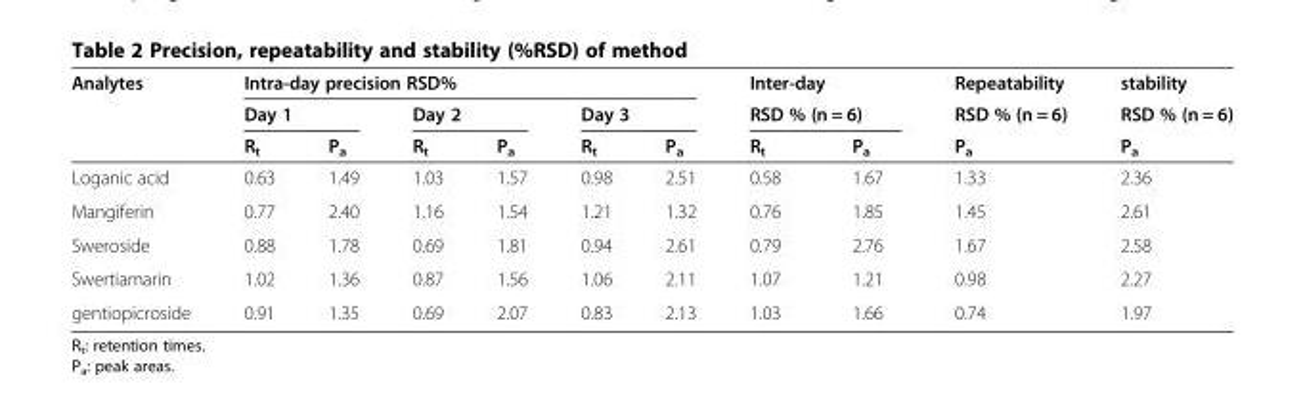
<table><thead><tr><td rowspan="3">Analytes</td><td colspan="6">Intra-day precision RSD%</td><td rowspan="2" colspan="2">Inter-day RSD % (n = 6)</td><td rowspan="3">Repeatability RSD % (n = 6) P<sub>a</sub></td><td rowspan="3">stability RSD % (n = 6) P<sub>a</sub></td></tr><tr><td colspan="2">Day 1</td><td colspan="2">Day 2</td><td colspan="2">Day 3</td></tr><tr><td>R<sub>t</sub></td><td>P<sub>a</sub></td><td>R<sub>t</sub></td><td>P<sub>a</sub></td><td>R<sub>t</sub></td><td>P<sub>a</sub></td><td>R<sub>t</sub></td><td>P<sub>a</sub></td></tr></thead><tbody><tr><td>Loganic acid</td><td>0.63</td><td>1.49</td><td>1.03</td><td>1.57</td><td>0.98</td><td>2.51</td><td>0.58</td><td>1.67</td><td>1.33</td><td>2.36</td></tr><tr><td>Mangiferin</td><td>0.77</td><td>2.40</td><td>1.16</td><td>1.54</td><td>1.21</td><td>1.32</td><td>0.76</td><td>1.85</td><td>1.45</td><td>2.61</td></tr><tr><td>Sweroside</td><td>0.88</td><td>1.78</td><td>0.69</td><td>1.81</td><td>0.94</td><td>2.61</td><td>0.79</td><td>2.76</td><td>1.67</td><td>2.58</td></tr><tr><td>Swertiamarin</td><td>1.02</td><td>1.36</td><td>0.87</td><td>1.56</td><td>1.06</td><td>2.11</td><td>1.07</td><td>1.21</td><td>0.98</td><td>2.27</td></tr><tr><td>gentiopicroside</td><td>0.91</td><td>1.35</td><td>0.69</td><td>2.07</td><td>0.83</td><td>2.13</td><td>1.03</td><td>1.66</td><td>0.74</td><td>1.97</td></tr></tbody></table>